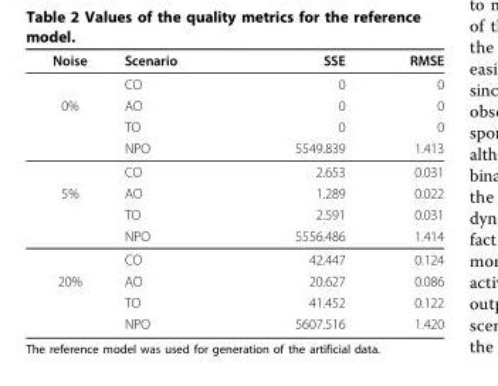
<table><thead><tr><td>Noise</td><td>Scenario</td><td>SSE</td><td>RMSE</td></tr></thead><tbody><tr><td></td><td>CO</td><td>0</td><td>0</td></tr><tr><td rowspan="4">0%</td><td>AO</td><td>0</td><td>0</td></tr><tr><td>TO</td><td>0</td><td>0</td></tr><tr><td>NPO</td><td>5549.839</td><td>1.413</td></tr><tr><td>CO</td><td>2.653</td><td>0.031</td></tr><tr><td rowspan="4">5%</td><td>AO</td><td>1.289</td><td>0.022</td></tr><tr><td>TO</td><td>2.591</td><td>0.031</td></tr><tr><td>NPO</td><td>5556.486</td><td>1.414</td></tr><tr><td>CO</td><td>42.447</td><td>0.124</td></tr><tr><td rowspan="3">20%</td><td>AO</td><td>20.627</td><td>0.086</td></tr><tr><td>TO</td><td>41.452</td><td>0.122</td></tr><tr><td>NPO</td><td>5607.516</td><td>1.420</td></tr></tbody></table>